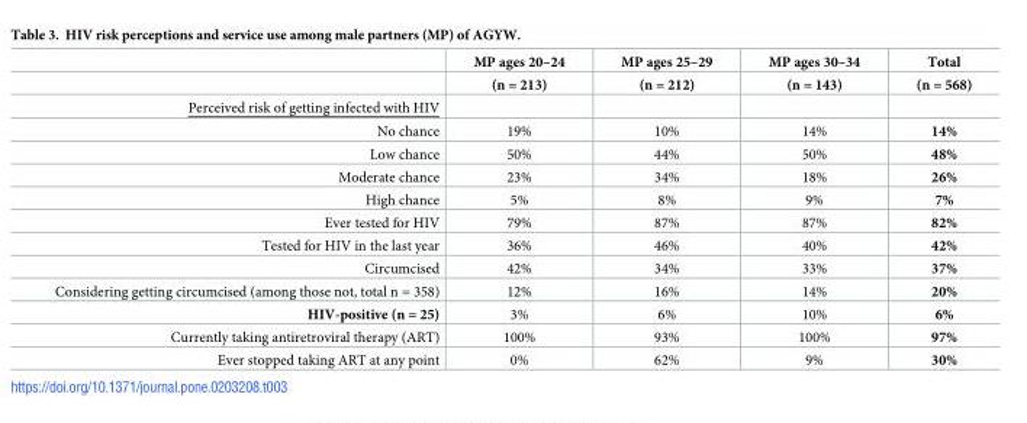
<table><thead><tr><td rowspan="2"></td><td rowspan="2">MP ages 20–24 (n = 213)</td><td rowspan="2">MP ages 25–29 (n = 212)</td><td rowspan="2">MP ages 30–34 (n = 143)</td><td rowspan="2">Total (n = 568)</td></tr><tr></tr></thead><tbody><tr><td colspan="5">Perceived risk of getting infected with HIV</td></tr><tr><td>No chance</td><td>19%</td><td>10%</td><td>14%</td><td>14%</td></tr><tr><td>Low chance</td><td>50%</td><td>44%</td><td>50%</td><td>48%</td></tr><tr><td>Moderate chance</td><td>23%</td><td>34%</td><td>18%</td><td>26%</td></tr><tr><td>High chance</td><td>5%</td><td>8%</td><td>9%</td><td>7%</td></tr><tr><td>Ever tested for HIV</td><td>79%</td><td>87%</td><td>87%</td><td>82%</td></tr><tr><td>Tested for HIV in the last year</td><td>36%</td><td>46%</td><td>40%</td><td>42%</td></tr><tr><td>Circumcised</td><td>42%</td><td>34%</td><td>33%</td><td>37%</td></tr><tr><td>Considering getting circumcised (among those not, total n = 358)</td><td>12%</td><td>16%</td><td>14%</td><td>20%</td></tr><tr><td>HIV-positive (n = 25)</td><td>3%</td><td>6%</td><td>10%</td><td>6%</td></tr><tr><td>Currently taking antiretroviral therapy (ART)</td><td>100%</td><td>93%</td><td>100%</td><td>97%</td></tr><tr><td>Ever stopped taking ART at any point</td><td>0%</td><td>62%</td><td>9%</td><td>30%</td></tr></tbody></table>